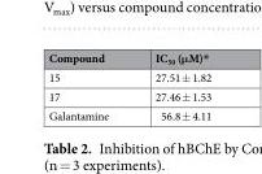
<table><thead><tr><td>Compound</td><td>IC<sub>50</sub> (μM)*</td></tr></thead><tbody><tr><td>15</td><td>27.51 ± 1.82</td></tr><tr><td>17</td><td>27.46 ± 1.53</td></tr><tr><td>Galantamine</td><td>56.8 ± 4.11</td></tr></tbody></table>